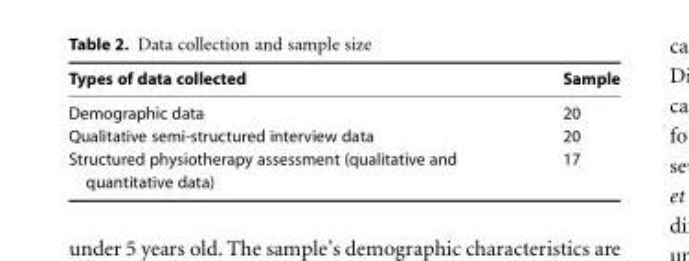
<table><thead><tr><td>Types of data collected</td><td>Sample</td></tr></thead><tbody><tr><td>Demographic data</td><td>20</td></tr><tr><td>Qualitative semi-structured interview data</td><td>20</td></tr><tr><td>Structured physiotherapy assessment (qualitative and quantitative data)</td><td>17</td></tr></tbody></table>